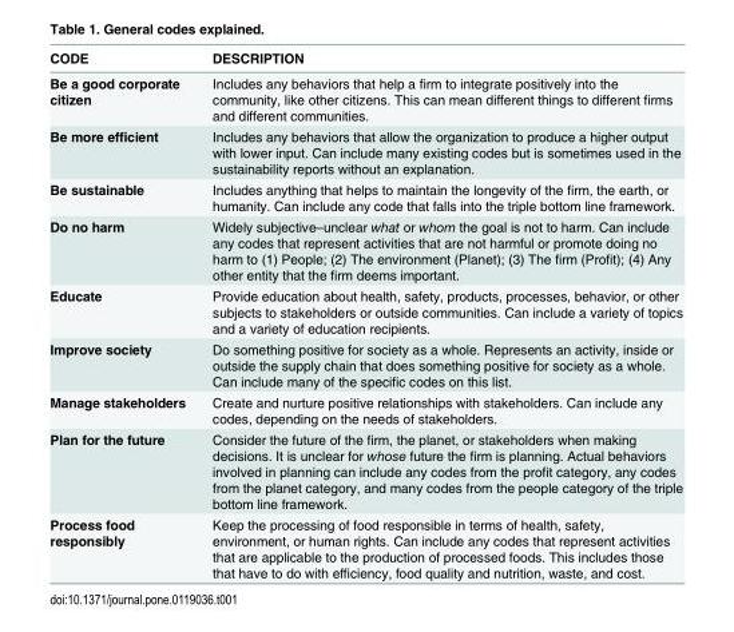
<table><thead><tr><td>CODE</td><td>DESCRIPTION</td></tr></thead><tbody><tr><td>Be a good corporate citizen</td><td>Includes any behaviors that help a firm to integrate positively into the community, like other citizens. This can mean different things to different firms and different communities.</td></tr><tr><td>Be more efficient</td><td>Includes any behaviors that allow the organization to produce a higher output with lower input. Can include many existing codes but is sometimes used in the sustainability reports without an explanation.</td></tr><tr><td>Be sustainable</td><td>Includes anything that helps to maintain the longevity of the firm, the earth, or humanity. Can include any code that falls into the triple bottom line framework.</td></tr><tr><td>Do no harm</td><td>Widely subjective–unclear what or whom the goal is not to harm. Can include any codes that represent activities that are not harmful or promote doing no harm to (1) People; (2) The environment (Planet); (3) The firm (Profit); (4) Any other entity that the firm deems important.</td></tr><tr><td>Educate</td><td>Provide education about health, safety, products, processes, behavior, or other subjects to stakeholders or outside communities. Can include a variety of topics and a variety of education recipients.</td></tr><tr><td>Improve society</td><td>Do something positive for society as a whole. Represents an activity, inside or outside the supply chain that does something positive for society as a whole. Can include many of the specific codes on this list.</td></tr><tr><td>Manage stakeholders</td><td>Create and nurture positive relationships with stakeholders. Can include any codes, depending on the needs of stakeholders.</td></tr><tr><td>Plan for the future</td><td>Consider the future of the firm, the planet, or stakeholders when making decisions. It is unclear for whose future the firm is planning. Actual behaviors involved in planning can include any codes from the profit category, any codes from the planet category, and many codes from the people category of the triple bottom line framework.</td></tr><tr><td>Process food responsibly</td><td>Keep the processing of food responsible in terms of health, safety, environment, or human rights. Can include any codes that represent activities that are applicable to the production of processed foods. This includes those that have to do with efficiency, food quality and nutrition, waste, and cost.</td></tr></tbody></table>